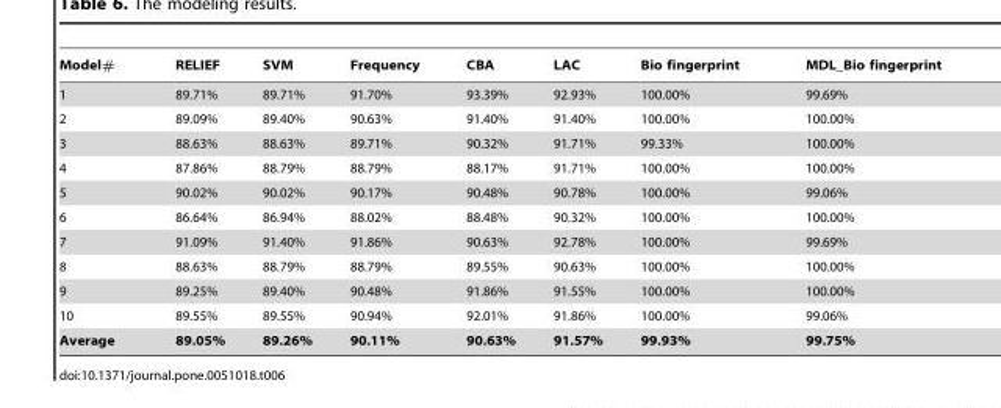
<table><thead><tr><td>Model#</td><td>RELIEF</td><td>SVM</td><td>Frequency</td><td>CBA</td><td>LAC</td><td>Bio fingerprint</td><td>MDL_Bio fingerprint</td></tr></thead><tbody><tr><td>1</td><td>89.71%</td><td>89.71%</td><td>91.70%</td><td>93.39%</td><td>92.93%</td><td>100.00%</td><td>99.69%</td></tr><tr><td>2</td><td>89.09%</td><td>89.40%</td><td>90.63%</td><td>91.40%</td><td>91.40%</td><td>100.00%</td><td>100.00%</td></tr><tr><td>3</td><td>88.63%</td><td>88.63%</td><td>89.71%</td><td>90.32%</td><td>91.71%</td><td>99.33%</td><td>100.00%</td></tr><tr><td>4</td><td>87.86%</td><td>88.79%</td><td>88.79%</td><td>88.17%</td><td>91.71%</td><td>100.00%</td><td>100.00%</td></tr><tr><td>5</td><td>90.02%</td><td>90.02%</td><td>90.17%</td><td>90.48%</td><td>90.78%</td><td>100.00%</td><td>99.06%</td></tr><tr><td>6</td><td>86.64%</td><td>86.94%</td><td>88.02%</td><td>88.48%</td><td>90.32%</td><td>100.00%</td><td>100.00%</td></tr><tr><td>7</td><td>91.09%</td><td>91.40%</td><td>91.86%</td><td>90.63%</td><td>92.78%</td><td>100.00%</td><td>99.69%</td></tr><tr><td>8</td><td>88.63%</td><td>88.79%</td><td>88.79%</td><td>89.55%</td><td>90.63%</td><td>100.00%</td><td>100.00%</td></tr><tr><td>9</td><td>89.25%</td><td>89.40%</td><td>90.48%</td><td>91.86%</td><td>91.55%</td><td>100.00%</td><td>100.00%</td></tr><tr><td>10</td><td>89.55%</td><td>89.55%</td><td>90.94%</td><td>92.01%</td><td>91.86%</td><td>100.00%</td><td>99.06%</td></tr><tr><td>Average</td><td>89.05%</td><td>89.26%</td><td>90.11%</td><td>90.63%</td><td>91.57%</td><td>99.93%</td><td>99.75%</td></tr></tbody></table>